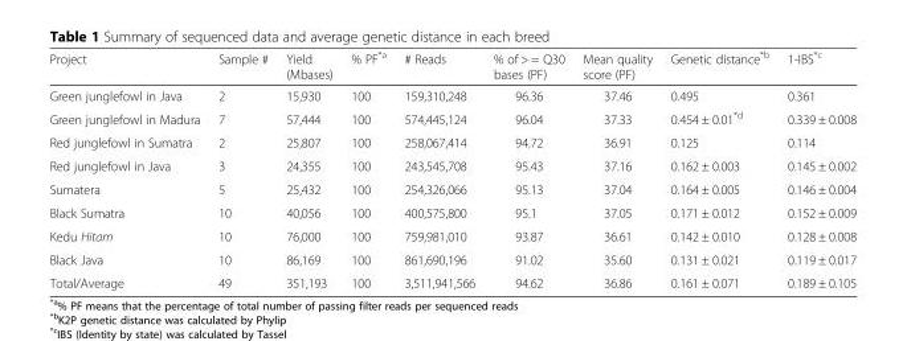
<table><thead><tr><td>Project</td><td>Sample #</td><td>Yield (Mbases)</td><td>% PF<sup>*a</sup></td><td># Reads</td><td>% of &gt; = Q30 bases (PF)</td><td>Mean quality score (PF)</td><td>Genetic distance<sup>*b</sup></td><td>1-IBS<sup>*c</sup></td></tr></thead><tbody><tr><td>Green junglefowl in Java</td><td>2</td><td>15,930</td><td>100</td><td>159,310,248</td><td>96.36</td><td>37.46</td><td>0.495</td><td>0.361</td></tr><tr><td>Green junglefowl in Madura</td><td>7</td><td>57,444</td><td>100</td><td>574,445,124</td><td>96.04</td><td>37.33</td><td>0.454 ± 0.01<sup>*d</sup></td><td>0.339 ± 0.008</td></tr><tr><td>Red junglefowl in Sumatra</td><td>2</td><td>25,807</td><td>100</td><td>258,067,414</td><td>94.72</td><td>36.91</td><td>0.125</td><td>0.114</td></tr><tr><td>Red junglefowl in Java</td><td>3</td><td>24,355</td><td>100</td><td>243,545,708</td><td>95.43</td><td>37.16</td><td>0.162 ± 0.003</td><td>0.145 ± 0.002</td></tr><tr><td>Sumatera</td><td>5</td><td>25,432</td><td>100</td><td>254,326,066</td><td>95.13</td><td>37.04</td><td>0.164 ± 0.005</td><td>0.146 ± 0.004</td></tr><tr><td>Black Sumatra</td><td>10</td><td>40,056</td><td>100</td><td>400,575,800</td><td>95.1</td><td>37.05</td><td>0.171 ± 0.012</td><td>0.152 ± 0.009</td></tr><tr><td>Kedu Hitam</td><td>10</td><td>76,000</td><td>100</td><td>759,981,010</td><td>93.87</td><td>36.61</td><td>0.142 ± 0.010</td><td>0.128 ± 0.008</td></tr><tr><td>Black Java</td><td>10</td><td>86,169</td><td>100</td><td>861,690,196</td><td>91.02</td><td>35.60</td><td>0.131 ± 0.021</td><td>0.119 ± 0.017</td></tr><tr><td>Total/Average</td><td>49</td><td>351,193</td><td>100</td><td>3,511,941,566</td><td>94.62</td><td>36.86</td><td>0.161 ± 0.071</td><td>0.189 ± 0.105</td></tr></tbody></table>